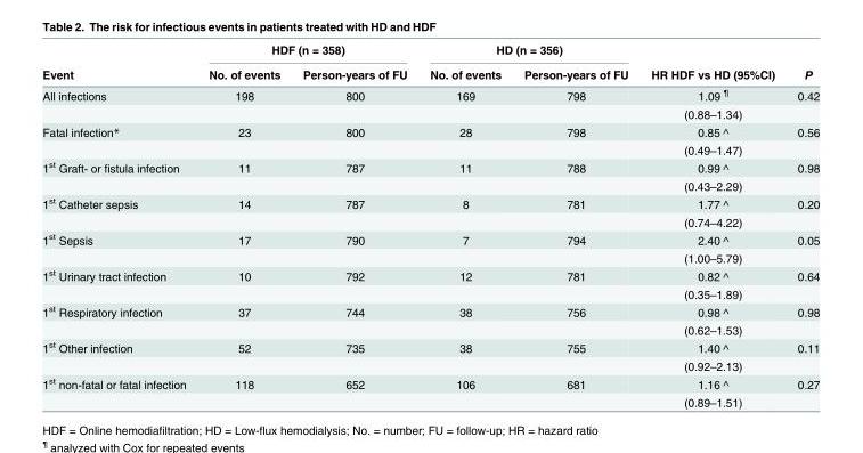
<table><thead><tr><td rowspan="2">Event</td><td colspan="2">HDF (n = 358)</td><td colspan="2">HD (n = 356)</td><td rowspan="2">HR HDF vs HD (95%CI)</td><td rowspan="2">P</td></tr><tr><td>No. of events</td><td>Person-years of FU</td><td>No. of events</td><td>Person-years of FU</td></tr></thead><tbody><tr><td rowspan="2">All infections</td><td>198</td><td>800</td><td>169</td><td>798</td><td>1.09 <sup>¶</sup></td><td>0.42</td></tr><tr><td></td><td></td><td></td><td></td><td>(0.88–1.34)</td><td></td></tr><tr><td rowspan="2">Fatal infection*</td><td>23</td><td>800</td><td>28</td><td>798</td><td>0.85 ^</td><td>0.56</td></tr><tr><td></td><td></td><td></td><td></td><td>(0.49–1.47)</td><td></td></tr><tr><td rowspan="2">1<sup>st</sup> Graft- or fistula infection</td><td>11</td><td>787</td><td>11</td><td>788</td><td>0.99 ^</td><td>0.98</td></tr><tr><td></td><td></td><td></td><td></td><td>(0.43–2.29)</td><td></td></tr><tr><td rowspan="2">1<sup>st</sup> Catheter sepsis</td><td>14</td><td>787</td><td>8</td><td>781</td><td>1.77 ^</td><td>0.20</td></tr><tr><td></td><td></td><td></td><td></td><td>(0.74–4.22)</td><td></td></tr><tr><td rowspan="2">1<sup>st</sup> Sepsis</td><td>17</td><td>790</td><td>7</td><td>794</td><td>2.40 ^</td><td>0.05</td></tr><tr><td></td><td></td><td></td><td></td><td>(1.00–5.79)</td><td></td></tr><tr><td rowspan="2">1<sup>st</sup> Urinary tract infection</td><td>10</td><td>792</td><td>12</td><td>781</td><td>0.82 ^</td><td>0.64</td></tr><tr><td></td><td></td><td></td><td></td><td>(0.35–1.89)</td><td></td></tr><tr><td rowspan="2">1<sup>st</sup> Respiratory infection</td><td>37</td><td>744</td><td>38</td><td>756</td><td>0.98 ^</td><td>0.98</td></tr><tr><td></td><td></td><td></td><td></td><td>(0.62–1.53)</td><td></td></tr><tr><td rowspan="2">1<sup>st</sup> Other infection</td><td>52</td><td>735</td><td>38</td><td>755</td><td>1.40 ^</td><td>0.11</td></tr><tr><td></td><td></td><td></td><td></td><td>(0.92–2.13)</td><td></td></tr><tr><td rowspan="2">1<sup>st</sup> non-fatal or fatal infection</td><td>118</td><td>652</td><td>106</td><td>681</td><td>1.16 ^</td><td>0.27</td></tr><tr><td></td><td></td><td></td><td></td><td>(0.89–1.51)</td><td></td></tr></tbody></table>